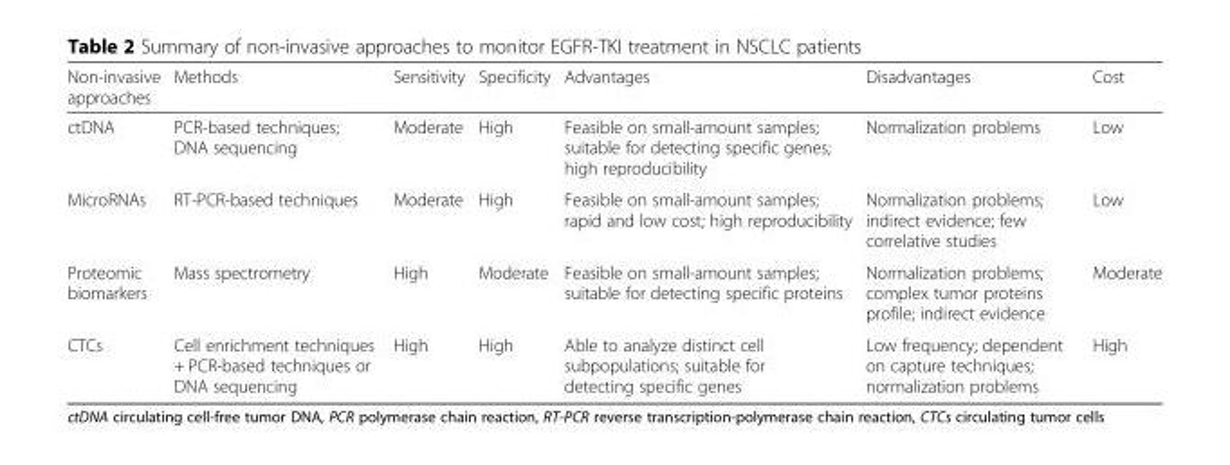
<table><thead><tr><td>Non-invasive approaches</td><td>Methods</td><td>Sensitivity</td><td>Specificity</td><td>Advantages</td><td>Disadvantages</td><td>Cost</td></tr></thead><tbody><tr><td>ctDNA</td><td>PCR-based techniques; DNA sequencing</td><td>Moderate</td><td>High</td><td>Feasible on small-amount samples; suitable for detecting specific genes; high reproducibility</td><td>Normalization problems</td><td>Low</td></tr><tr><td>MicroRNAs</td><td>RT-PCR-based techniques</td><td>Moderate</td><td>High</td><td>Feasible on small-amount samples; rapid and low cost; high reproducibility</td><td>Normalization problems; indirect evidence; few correlative studies</td><td>Low</td></tr><tr><td>Proteomic biomarkers</td><td>Mass spectrometry</td><td>High</td><td>Moderate</td><td>Feasible on small-amount samples; suitable for detecting specific proteins</td><td>Normalization problems; complex tumor proteins profile; indirect evidence</td><td>Moderate</td></tr><tr><td>CTCs</td><td>Cell enrichment techniques + PCR-based techniques or DNA sequencing</td><td>High</td><td>High</td><td>Able to analyze distinct cell subpopulations; suitable for detecting specific genes</td><td>Low frequency; dependent on capture techniques; normalization problems</td><td>High</td></tr></tbody></table>